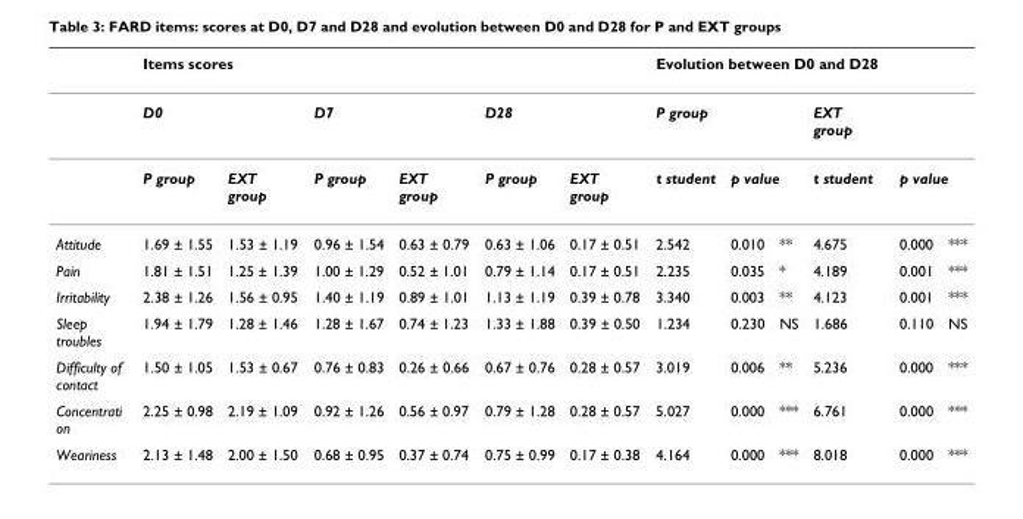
<table><thead><tr><td rowspan="2"></td><td colspan="6">Items scores</td><td colspan="6">Evolution between D0 and D28</td></tr><tr><td>D0</td><td></td><td>D7</td><td></td><td>D28</td><td></td><td>P group</td><td></td><td></td><td>EXT group</td><td></td><td></td></tr></thead><tbody><tr><td></td><td>P group</td><td>EXT group</td><td>P group</td><td>EXT group</td><td>P group</td><td>EXT group</td><td>t student</td><td colspan="2">p value</td><td>t student</td><td colspan="2">p value</td></tr><tr><td>Attitude</td><td>1.69 ± 1.55</td><td>1.53 ± 1.19</td><td>0.96 ± 1.54</td><td>0.63 ± 0.79</td><td>0.63 ± 1.06</td><td>0.17 ± 0.51</td><td>2.542</td><td>0.010</td><td>**</td><td>4.675</td><td>0.000</td><td>***</td></tr><tr><td>Pain</td><td>1.81 ± 1.51</td><td>1.25 ± 1.39</td><td>1.00 ± 1.29</td><td>0.52 ± 1.01</td><td>0.79 ± 1.14</td><td>0.17 ± 0.51</td><td>2.235</td><td>0.035</td><td>*</td><td>4.189</td><td>0.001</td><td>***</td></tr><tr><td>Irritability</td><td>2.38 ± 1.26</td><td>1.56 ± 0.95</td><td>1.40 ± 1.19</td><td>0.89 ± 1.01</td><td>1.13 ± 1.19</td><td>0.39 ± 0.78</td><td>3.340</td><td>0.003</td><td>**</td><td>4.123</td><td>0.001</td><td>***</td></tr><tr><td>Sleep troubles</td><td>1.94 ± 1.79</td><td>1.28 ± 1.46</td><td>1.28 ± 1.67</td><td>0.74 ± 1.23</td><td>1.33 ± 1.88</td><td>0.39 ± 0.50</td><td>1.234</td><td>0.230</td><td>NS</td><td>1.686</td><td>0.110</td><td>NS</td></tr><tr><td>Difficulty of contact</td><td>1.50 ± 1.05</td><td>1.53 ± 0.67</td><td>0.76 ± 0.83</td><td>0.26 ± 0.66</td><td>0.67 ± 0.76</td><td>0.28 ± 0.57</td><td>3.019</td><td>0.006</td><td>**</td><td>5.236</td><td>0.000</td><td>***</td></tr><tr><td>Concentrati on</td><td>2.25 ± 0.98</td><td>2.19 ± 1.09</td><td>0.92 ± 1.26</td><td>0.56 ± 0.97</td><td>0.79 ± 1.28</td><td>0.28 ± 0.57</td><td>5.027</td><td>0.000</td><td>***</td><td>6.761</td><td>0.000</td><td>***</td></tr><tr><td>Weariness</td><td>2.13 ± 1.48</td><td>2.00 ± 1.50</td><td>0.68 ± 0.95</td><td>0.37 ± 0.74</td><td>0.75 ± 0.99</td><td>0.17 ± 0.38</td><td>4.164</td><td>0.000</td><td>***</td><td>8.018</td><td>0.000</td><td>***</td></tr></tbody></table>